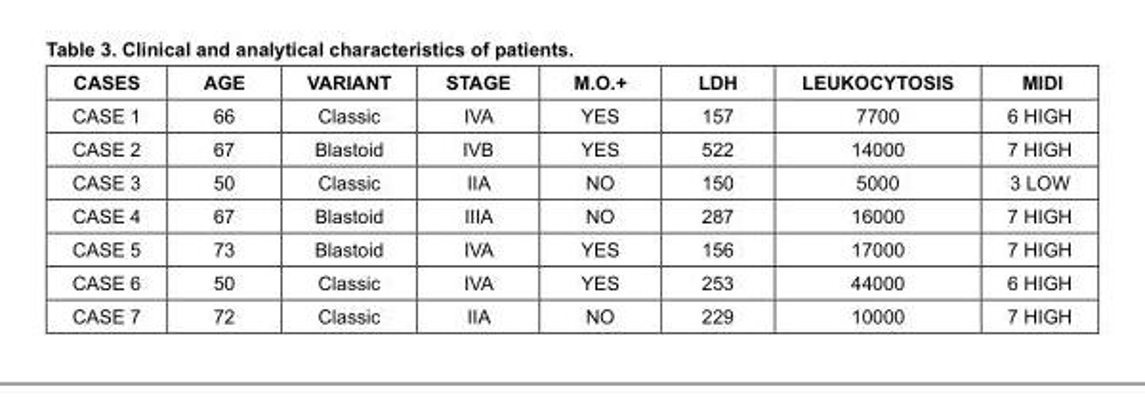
<table><thead><tr><td>CASES</td><td>AGE</td><td>VARIANT</td><td>STAGE</td><td>M.O.+</td><td>LDH</td><td>LEUKOCYTOSIS</td><td>MIDI</td></tr></thead><tbody><tr><td>CASE 1</td><td>66</td><td>Classic</td><td>IVA</td><td>YES</td><td>157</td><td>7700</td><td>6 HIGH</td></tr><tr><td>CASE 2</td><td>67</td><td>Blastoid</td><td>IVB</td><td>YES</td><td>522</td><td>14000</td><td>7 HIGH</td></tr><tr><td>CASE 3</td><td>50</td><td>Classic</td><td>IIA</td><td>NO</td><td>150</td><td>5000</td><td>3 LOW</td></tr><tr><td>CASE 4</td><td>67</td><td>Blastoid</td><td>IIIA</td><td>NO</td><td>287</td><td>16000</td><td>7 HIGH</td></tr><tr><td>CASE 5</td><td>73</td><td>Blastoid</td><td>IVA</td><td>YES</td><td>156</td><td>17000</td><td>7 HIGH</td></tr><tr><td>CASE 6</td><td>50</td><td>Classic</td><td>IVA</td><td>YES</td><td>253</td><td>44000</td><td>6 HIGH</td></tr><tr><td>CASE 7</td><td>72</td><td>Classic</td><td>IIA</td><td>NO</td><td>229</td><td>10000</td><td>7 HIGH</td></tr></tbody></table>